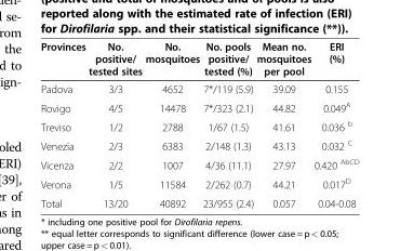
<table><thead><tr><td>Provinces</td><td>No. positive/ tested sites</td><td>No. mosquitoes</td><td>No. pools positive/ tested (%)</td><td>Mean no. mosquitoes per pool</td><td>ERI (%)</td></tr></thead><tbody><tr><td>Padova</td><td>3/3</td><td>4652</td><td>7*/119 (5.9)</td><td>39.09</td><td>0.155</td></tr><tr><td>Rovigo</td><td>4/5</td><td>14478</td><td>7*/323 (2.1)</td><td>44.82</td><td>0.049<sup>A</sup></td></tr><tr><td>Treviso</td><td>1/2</td><td>2788</td><td>1/67 (1.5)</td><td>41.61</td><td>0.036 <sup>b</sup></td></tr><tr><td>Venezia</td><td>2/3</td><td>6383</td><td>2/148 (1.3)</td><td>43.13</td><td>0.032 <sup>C</sup></td></tr><tr><td>Vicenza</td><td>2/2</td><td>1007</td><td>4/36 (11.1)</td><td>27.97</td><td>0.420 <sup>AbCD</sup></td></tr><tr><td>Verona</td><td>1/5</td><td>11584</td><td>2/262 (0.7)</td><td>44.21</td><td>0.017<sup>D</sup></td></tr><tr><td>Total</td><td>13/20</td><td>40892</td><td>23/955 (2.4)</td><td>0.057</td><td>0.04-0.08</td></tr></tbody></table>